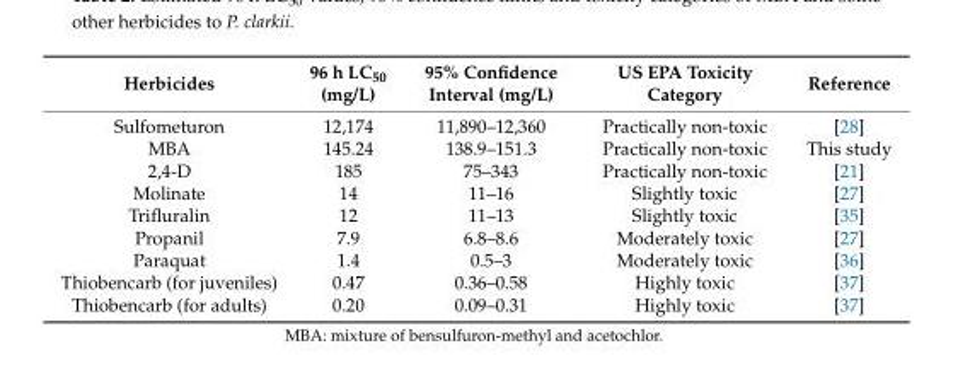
<table><thead><tr><td>Herbicides</td><td>96 h LC<sub>50</sub> (mg/L)</td><td>95% Confidence Interval (mg/L)</td><td>US EPA Toxicity Category</td><td>Reference</td></tr></thead><tbody><tr><td>Sulfometuron</td><td>12,174</td><td>11,890–12,360</td><td>Practically non-toxic</td><td>[28]</td></tr><tr><td>MBA</td><td>145.24</td><td>138.9–151.3</td><td>Practically non-toxic</td><td>This study</td></tr><tr><td>2,4-D</td><td>185</td><td>75–343</td><td>Practically non-toxic</td><td>[21]</td></tr><tr><td>Molinate</td><td>14</td><td>11–16</td><td>Slightly toxic</td><td>[27]</td></tr><tr><td>Trifluralin</td><td>12</td><td>11–13</td><td>Slightly toxic</td><td>[35]</td></tr><tr><td>Propanil</td><td>7.9</td><td>6.8–8.6</td><td>Moderately toxic</td><td>[27]</td></tr><tr><td>Paraquat</td><td>1.4</td><td>0.5–3</td><td>Moderately toxic</td><td>[36]</td></tr><tr><td>Thiobencarb (for juveniles)</td><td>0.47</td><td>0.36–0.58</td><td>Highly toxic</td><td>[37]</td></tr><tr><td>Thiobencarb (for adults)</td><td>0.20</td><td>0.09–0.31</td><td>Highly toxic</td><td>[37]</td></tr></tbody></table>